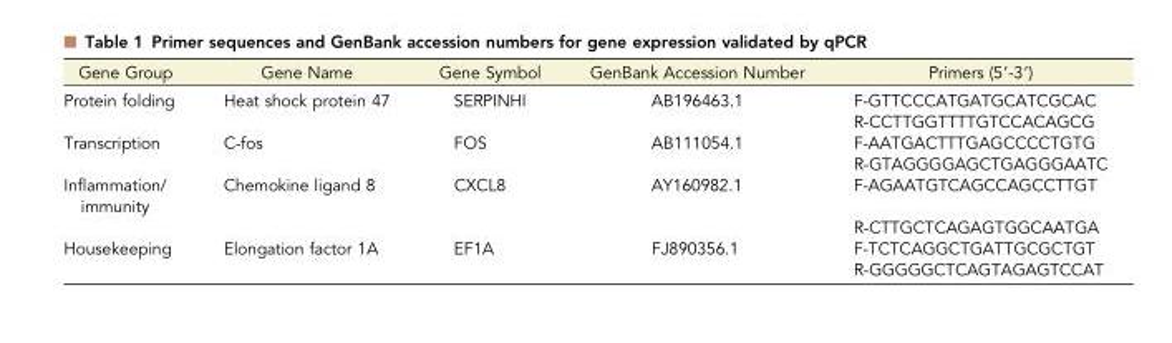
<table><thead><tr><td>Gene Group</td><td>Gene Name</td><td>Gene Symbol</td><td>GenBank Accession Number</td><td>Primers (5′-3′)</td></tr></thead><tbody><tr><td rowspan="2">Protein folding</td><td>Heat shock protein 47</td><td>SERPINHI</td><td>AB196463.1</td><td>F-GTTCCCATGATGCATCGCAC</td></tr><tr><td></td><td></td><td></td><td>R-CCTTGGTTTTGTCCACAGCG</td></tr><tr><td rowspan="2">Transcription</td><td>C-fos</td><td>FOS</td><td>AB111054.1</td><td>F-AATGACTTTGAGCCCCTGTG</td></tr><tr><td></td><td></td><td></td><td>R-GTAGGGGAGCTGAGGGAATC</td></tr><tr><td rowspan="2">Inflammation/ immunity</td><td>Chemokine ligand 8</td><td>CXCL8</td><td>AY160982.1</td><td>F-AGAATGTCAGCCAGCCTTGT</td></tr><tr><td></td><td></td><td></td><td>R-CTTGCTCAGAGTGGCAATGA</td></tr><tr><td rowspan="2">Housekeeping</td><td>Elongation factor 1A</td><td>EF1A</td><td>FJ890356.1</td><td>F-TCTCAGGCTGATTGCGCTGT</td></tr><tr><td></td><td></td><td></td><td>R-GGGGGCTCAGTAGAGTCCAT</td></tr></tbody></table>